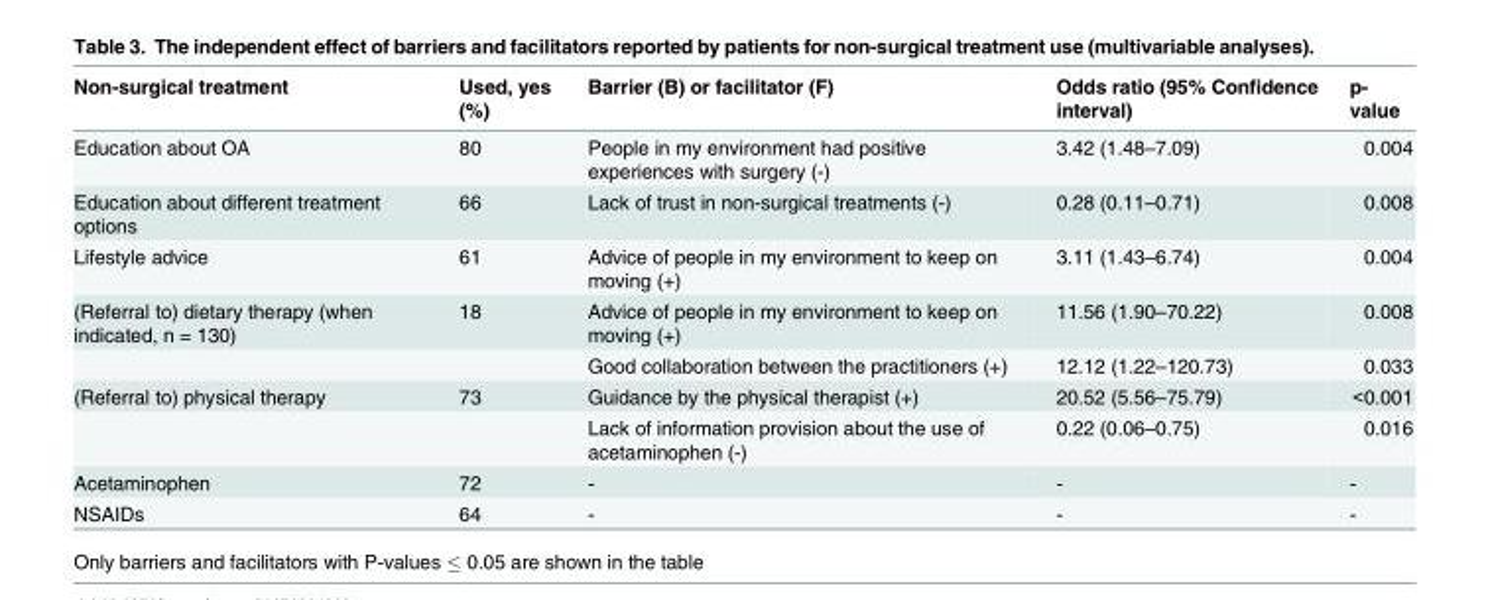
<table><thead><tr><td>Non-surgical treatment</td><td>Used, yes (%)</td><td>Barrier (B) or facilitator (F)</td><td>Odds ratio (95% Confidence interval)</td><td>p- value</td></tr></thead><tbody><tr><td>Education about OA</td><td>80</td><td>People in my environment had positive experiences with surgery (-)</td><td>3.42 (1.48–7.09)</td><td>0.004</td></tr><tr><td>Education about different treatment options</td><td>66</td><td>Lack of trust in non-surgical treatments (-)</td><td>0.28 (0.11–0.71)</td><td>0.008</td></tr><tr><td>Lifestyle advice</td><td>61</td><td>Advice of people in my environment to keep on moving (+)</td><td>3.11 (1.43–6.74)</td><td>0.004</td></tr><tr><td rowspan="2">(Referral to) dietary therapy (when indicated, n = 130)</td><td>18</td><td>Advice of people in my environment to keep on moving (+)</td><td>11.56 (1.90–70.22)</td><td>0.008</td></tr><tr><td></td><td>Good collaboration between the practitioners (+)</td><td>12.12 (1.22–120.73)</td><td>0.033</td></tr><tr><td rowspan="2">(Referral to) physical therapy</td><td>73</td><td>Guidance by the physical therapist (+)</td><td>20.52 (5.56–75.79)</td><td>&lt;0.001</td></tr><tr><td></td><td>Lack of information provision about the use of acetaminophen (-)</td><td>0.22 (0.06–0.75)</td><td>0.016</td></tr><tr><td>Acetaminophen</td><td>72</td><td>-</td><td>-</td><td>-</td></tr><tr><td>NSAIDs</td><td>64</td><td>-</td><td>-</td><td>-</td></tr></tbody></table>